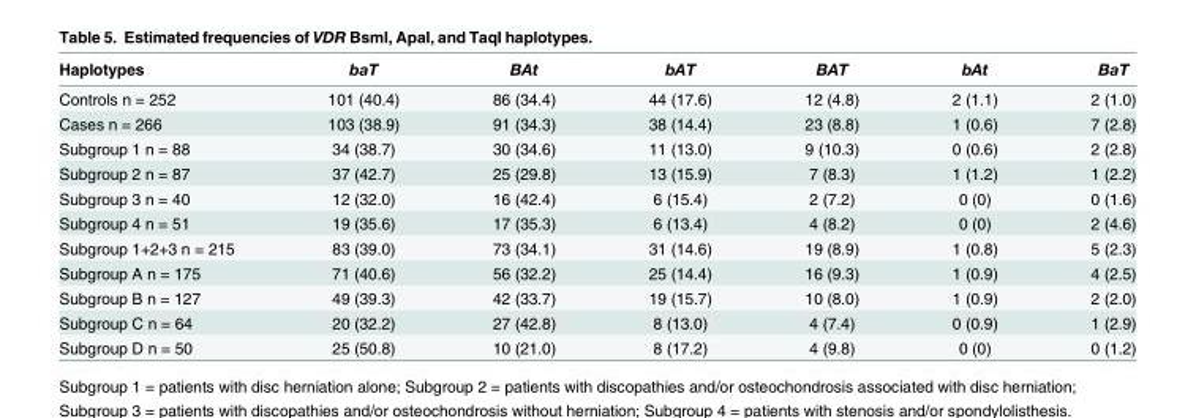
<table><thead><tr><td>Haplotypes</td><td>baT</td><td>BAt</td><td>bAT</td><td>BAT</td><td>bAt</td><td>BaT</td></tr></thead><tbody><tr><td>Controls n = 252</td><td>101 (40.4)</td><td>86 (34.4)</td><td>44 (17.6)</td><td>12 (4.8)</td><td>2 (1.1)</td><td>2 (1.0)</td></tr><tr><td>Cases n = 266</td><td>103 (38.9)</td><td>91 (34.3)</td><td>38 (14.4)</td><td>23 (8.8)</td><td>1 (0.6)</td><td>7 (2.8)</td></tr><tr><td>Subgroup 1 n = 88</td><td>34 (38.7)</td><td>30 (34.6)</td><td>11 (13.0)</td><td>9 (10.3)</td><td>0 (0.6)</td><td>2 (2.8)</td></tr><tr><td>Subgroup 2 n = 87</td><td>37 (42.7)</td><td>25 (29.8)</td><td>13 (15.9)</td><td>7 (8.3)</td><td>1 (1.2)</td><td>1 (2.2)</td></tr><tr><td>Subgroup 3 n = 40</td><td>12 (32.0)</td><td>16 (42.4)</td><td>6 (15.4)</td><td>2 (7.2)</td><td>0 (0)</td><td>0 (1.6)</td></tr><tr><td>Subgroup 4 n = 51</td><td>19 (35.6)</td><td>17 (35.3)</td><td>6 (13.4)</td><td>4 (8.2)</td><td>0 (0)</td><td>2 (4.6)</td></tr><tr><td>Subgroup 1+2+3 n = 215</td><td>83 (39.0)</td><td>73 (34.1)</td><td>31 (14.6)</td><td>19 (8.9)</td><td>1 (0.8)</td><td>5 (2.3)</td></tr><tr><td>Subgroup A n = 175</td><td>71 (40.6)</td><td>56 (32.2)</td><td>25 (14.4)</td><td>16 (9.3)</td><td>1 (0.9)</td><td>4 (2.5)</td></tr><tr><td>Subgroup B n = 127</td><td>49 (39.3)</td><td>42 (33.7)</td><td>19 (15.7)</td><td>10 (8.0)</td><td>1 (0.9)</td><td>2 (2.0)</td></tr><tr><td>Subgroup C n = 64</td><td>20 (32.2)</td><td>27 (42.8)</td><td>8 (13.0)</td><td>4 (7.4)</td><td>0 (0.9)</td><td>1 (2.9)</td></tr><tr><td>Subgroup D n = 50</td><td>25 (50.8)</td><td>10 (21.0)</td><td>8 (17.2)</td><td>4 (9.8)</td><td>0 (0)</td><td>0 (1.2)</td></tr></tbody></table>